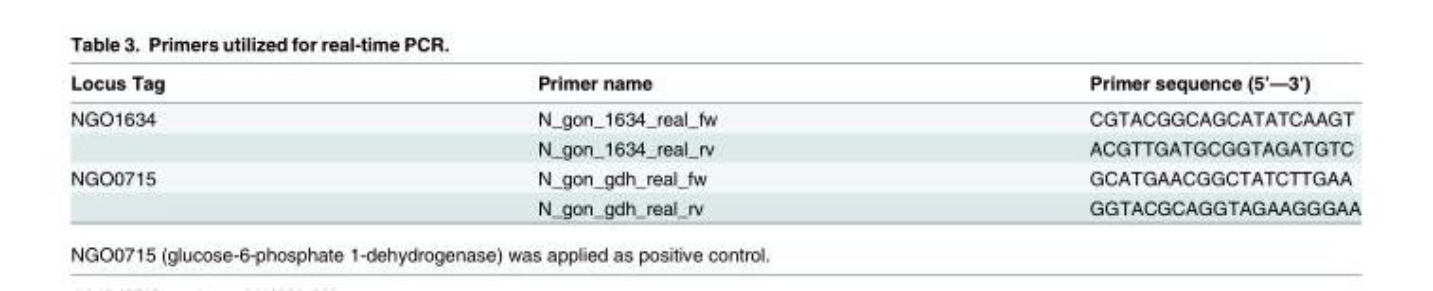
<table><thead><tr><td>Locus Tag</td><td>Primer name</td><td>Primer sequence (5’—3’)</td></tr></thead><tbody><tr><td rowspan="2">NGO1634</td><td>N_gon_1634_real_fw</td><td>CGTACGGCAGCATATCAAGT</td></tr><tr><td>N_gon_1634_real_rv</td><td>ACGTTGATGCGGTAGATGTC</td></tr><tr><td rowspan="2">NGO0715</td><td>N_gon_gdh_real_fw</td><td>GCATGAACGGCTATCTTGAA</td></tr><tr><td>N_gon_gdh_real_rv</td><td>GGTACGCAGGTAGAAGGGAA</td></tr></tbody></table>